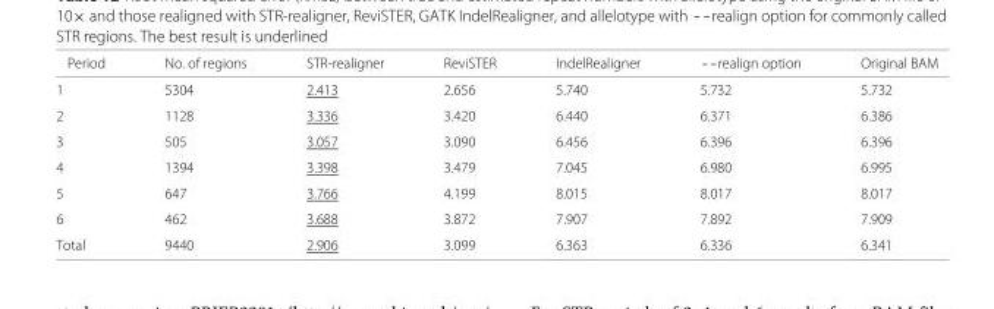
<table><thead><tr><td>Period</td><td>No. of regions</td><td>STR-realigner</td><td>ReviSTER</td><td>IndelRealigner</td><td>--realign option</td><td>Original BAM</td></tr></thead><tbody><tr><td>1</td><td>5304</td><td>2.413</td><td>2.656</td><td>5.740</td><td>5.732</td><td>5.732</td></tr><tr><td>2</td><td>1128</td><td>3.336</td><td>3.420</td><td>6.440</td><td>6.371</td><td>6.386</td></tr><tr><td>3</td><td>505</td><td>3.057</td><td>3.090</td><td>6.456</td><td>6.396</td><td>6.396</td></tr><tr><td>4</td><td>1394</td><td>3.398</td><td>3.479</td><td>7.045</td><td>6.980</td><td>6.995</td></tr><tr><td>5</td><td>647</td><td>3.766</td><td>4.199</td><td>8.015</td><td>8.017</td><td>8.017</td></tr><tr><td>6</td><td>462</td><td>3.688</td><td>3.872</td><td>7.907</td><td>7.892</td><td>7.909</td></tr><tr><td>Total</td><td>9440</td><td>2.906</td><td>3.099</td><td>6.363</td><td>6.336</td><td>6.341</td></tr></tbody></table>